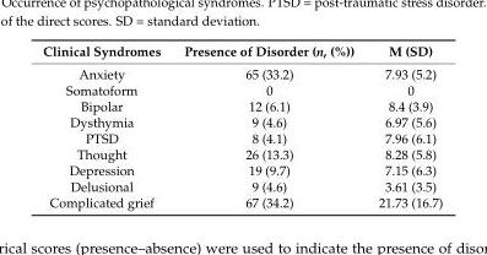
<table><thead><tr><td>Clinical Syndromes</td><td>Presence of Disorder (n, (%))</td><td>M (SD)</td></tr></thead><tbody><tr><td>Anxiety</td><td>65 (33.2)</td><td>7.93 (5.2)</td></tr><tr><td>Somatoform</td><td>0</td><td>0</td></tr><tr><td>Bipolar</td><td>12 (6.1)</td><td>8.4 (3.9)</td></tr><tr><td>Dysthymia</td><td>9 (4.6)</td><td>6.97 (5.6)</td></tr><tr><td>PTSD</td><td>8 (4.1)</td><td>7.96 (6.1)</td></tr><tr><td>Thought</td><td>26 (13.3)</td><td>8.28 (5.8)</td></tr><tr><td>Depression</td><td>19 (9.7)</td><td>7.15 (6.3)</td></tr><tr><td>Delusional</td><td>9 (4.6)</td><td>3.61 (3.5)</td></tr><tr><td>Complicated grief</td><td>67 (34.2)</td><td>21.73 (16.7)</td></tr></tbody></table>